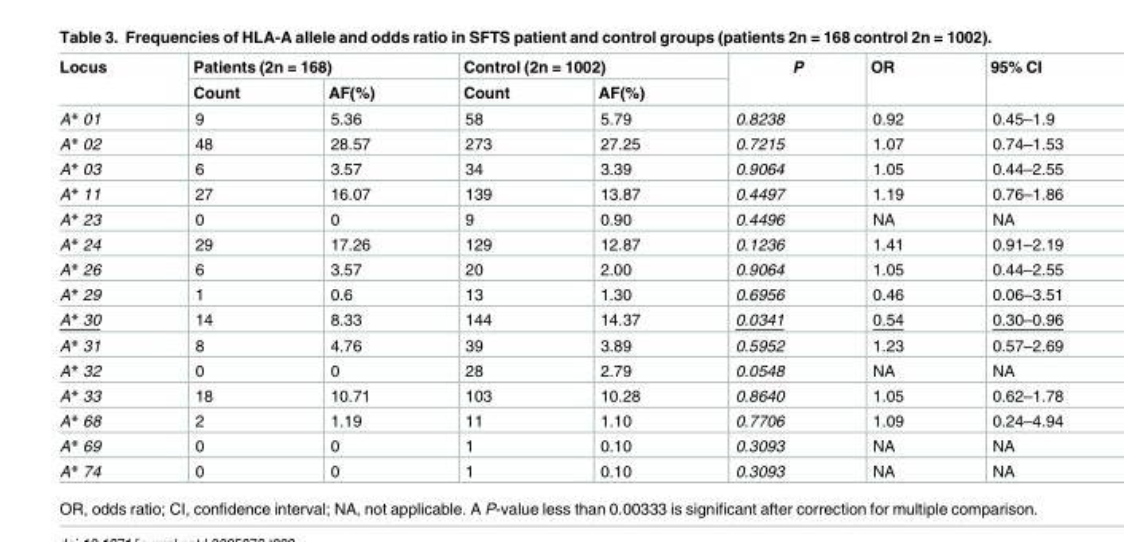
<table><thead><tr><td rowspan="2">Locus</td><td colspan="2">Patients (2n = 168)</td><td colspan="2">Control (2n = 1002)</td><td rowspan="2">P</td><td rowspan="2">OR</td><td rowspan="2">95% CI</td></tr><tr><td>Count</td><td>AF(%)</td><td>Count</td><td>AF(%)</td></tr></thead><tbody><tr><td>A* 01</td><td>9</td><td>5.36</td><td>58</td><td>5.79</td><td>0.8238</td><td>0.92</td><td>0.45–1.9</td></tr><tr><td>A* 02</td><td>48</td><td>28.57</td><td>273</td><td>27.25</td><td>0.7215</td><td>1.07</td><td>0.74–1.53</td></tr><tr><td>A* 03</td><td>6</td><td>3.57</td><td>34</td><td>3.39</td><td>0.9064</td><td>1.05</td><td>0.44–2.55</td></tr><tr><td>A* 11</td><td>27</td><td>16.07</td><td>139</td><td>13.87</td><td>0.4497</td><td>1.19</td><td>0.76–1.86</td></tr><tr><td>A* 23</td><td>0</td><td>0</td><td>9</td><td>0.90</td><td>0.4496</td><td>NA</td><td>NA</td></tr><tr><td>A* 24</td><td>29</td><td>17.26</td><td>129</td><td>12.87</td><td>0.1236</td><td>1.41</td><td>0.91–2.19</td></tr><tr><td>A* 26</td><td>6</td><td>3.57</td><td>20</td><td>2.00</td><td>0.9064</td><td>1.05</td><td>0.44–2.55</td></tr><tr><td>A* 29</td><td>1</td><td>0.6</td><td>13</td><td>1.30</td><td>0.6956</td><td>0.46</td><td>0.06–3.51</td></tr><tr><td>A* 30</td><td>14</td><td>8.33</td><td>144</td><td>14.37</td><td>0.0341</td><td>0.54</td><td>0.30–0.96</td></tr><tr><td>A* 31</td><td>8</td><td>4.76</td><td>39</td><td>3.89</td><td>0.5952</td><td>1.23</td><td>0.57–2.69</td></tr><tr><td>A* 32</td><td>0</td><td>0</td><td>28</td><td>2.79</td><td>0.0548</td><td>NA</td><td>NA</td></tr><tr><td>A* 33</td><td>18</td><td>10.71</td><td>103</td><td>10.28</td><td>0.8640</td><td>1.05</td><td>0.62–1.78</td></tr><tr><td>A* 68</td><td>2</td><td>1.19</td><td>11</td><td>1.10</td><td>0.7706</td><td>1.09</td><td>0.24–4.94</td></tr><tr><td>A* 69</td><td>0</td><td>0</td><td>1</td><td>0.10</td><td>0.3093</td><td>NA</td><td>NA</td></tr><tr><td>A* 74</td><td>0</td><td>0</td><td>1</td><td>0.10</td><td>0.3093</td><td>NA</td><td>NA</td></tr></tbody></table>